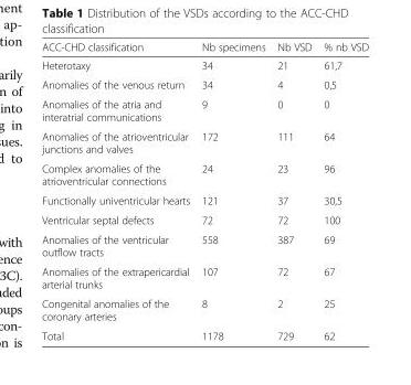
<table><thead><tr><td>ACC-CHD classification</td><td>Nb specimens</td><td>Nb VSD</td><td>% nb VSD</td></tr></thead><tbody><tr><td>Heterotaxy</td><td>34</td><td>21</td><td>61,7</td></tr><tr><td>Anomalies of the venous return</td><td>34</td><td>4</td><td>0,5</td></tr><tr><td>Anomalies of the atria and interatrial communications</td><td>9</td><td>0</td><td>0</td></tr><tr><td>Anomalies of the atrioventricular junctions and valves</td><td>172</td><td>111</td><td>64</td></tr><tr><td>Complex anomalies of the atrioventricular connections</td><td>24</td><td>23</td><td>96</td></tr><tr><td>Functionally univentricular hearts</td><td>121</td><td>37</td><td>30,5</td></tr><tr><td>Ventricular septal defects</td><td>72</td><td>72</td><td>100</td></tr><tr><td>Anomalies of the ventricular outflow tracts</td><td>558</td><td>387</td><td>69</td></tr><tr><td>Anomalies of the extrapericardial arterial trunks</td><td>107</td><td>72</td><td>67</td></tr><tr><td>Congenital anomalies of the coronary arteries</td><td>8</td><td>2</td><td>25</td></tr><tr><td>Total</td><td>1178</td><td>729</td><td>62</td></tr></tbody></table>